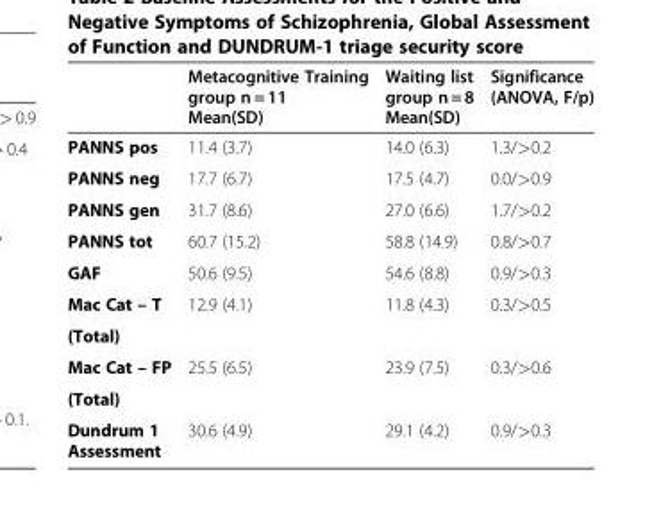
<table><thead><tr><td></td><td>Metacognitive Training group n = 11 Mean(SD)</td><td>Waiting list group n = 8 Mean(SD)</td><td>Significance (ANOVA, F/p)</td></tr></thead><tbody><tr><td>PANNS pos</td><td>11.4 (3.7)</td><td>14.0 (6.3)</td><td>1.3/&gt;0.2</td></tr><tr><td>PANNS neg</td><td>17.7 (6.7)</td><td>17.5 (4.7)</td><td>0.0/&gt;0.9</td></tr><tr><td>PANNS gen</td><td>31.7 (8.6)</td><td>27.0 (6.6)</td><td>1.7/&gt;0.2</td></tr><tr><td>PANNS tot</td><td>60.7 (15.2)</td><td>58.8 (14.9)</td><td>0.8/&gt;0.7</td></tr><tr><td>GAF</td><td>50.6 (9.5)</td><td>54.6 (8.8)</td><td>0.9/&gt;0.3</td></tr><tr><td>Mac Cat – T</td><td>12.9 (4.1)</td><td>11.8 (4.3)</td><td>0.3/&gt;0.5</td></tr><tr><td colspan="4">(Total)</td></tr><tr><td>Mac Cat – FP</td><td>25.5 (6.5)</td><td>23.9 (7.5)</td><td>0.3/&gt;0.6</td></tr><tr><td colspan="4">(Total)</td></tr><tr><td>Dundrum 1 Assessment</td><td>30.6 (4.9)</td><td>29.1 (4.2)</td><td>0.9/&gt;0.3</td></tr></tbody></table>